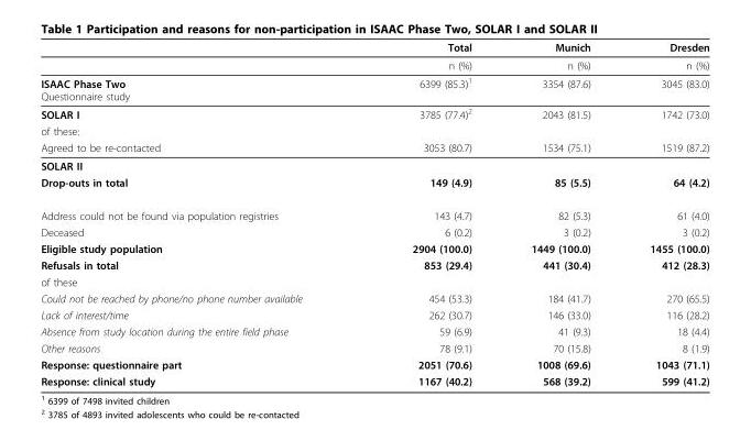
<table><thead><tr><td></td><td>Total</td><td>Munich</td><td>Dresden</td></tr></thead><tbody><tr><td></td><td>n (%)</td><td>n (%)</td><td>n (%)</td></tr><tr><td>ISAAC Phase Two Questionnaire study</td><td>6399 (85.3)<sup>1</sup></td><td>3354 (87.6)</td><td>3045 (83.0)</td></tr><tr><td>SOLAR I</td><td>3785 (77.4)<sup>2</sup></td><td>2043 (81.5)</td><td>1742 (73.0)</td></tr><tr><td colspan="4">of these:</td></tr><tr><td>Agreed to be re-contacted</td><td>3053 (80.7)</td><td>1534 (75.1)</td><td>1519 (87.2)</td></tr><tr><td colspan="4">SOLAR II</td></tr><tr><td>Drop-outs in total</td><td>149 (4.9)</td><td>85 (5.5)</td><td>64 (4.2)</td></tr><tr><td>Address could not be found via population registries</td><td>143 (4.7)</td><td>82 (5.3)</td><td>61 (4.0)</td></tr><tr><td>Deceased</td><td>6 (0.2)</td><td>3 (0.2)</td><td>3 (0.2)</td></tr><tr><td>Eligible study population</td><td>2904 (100.0)</td><td>1449 (100.0)</td><td>1455 (100.0)</td></tr><tr><td>Refusals in total</td><td>853 (29.4)</td><td>441 (30.4)</td><td>412 (28.3)</td></tr><tr><td colspan="4">of these</td></tr><tr><td>Could not be reached by phone/no phone number available</td><td>454 (53.3)</td><td>184 (41.7)</td><td>270 (65.5)</td></tr><tr><td>Lack of interest/time</td><td>262 (30.7)</td><td>146 (33.0)</td><td>116 (28.2)</td></tr><tr><td>Absence from study location during the entire field phase</td><td>59 (6.9)</td><td>41 (9.3)</td><td>18 (4.4)</td></tr><tr><td>Other reasons</td><td>78 (9.1)</td><td>70 (15.8)</td><td>8 (1.9)</td></tr><tr><td>Response: questionnaire part</td><td>2051 (70.6)</td><td>1008 (69.6)</td><td>1043 (71.1)</td></tr><tr><td>Response: clinical study</td><td>1167 (40.2)</td><td>568 (39.2)</td><td>599 (41.2)</td></tr></tbody></table>